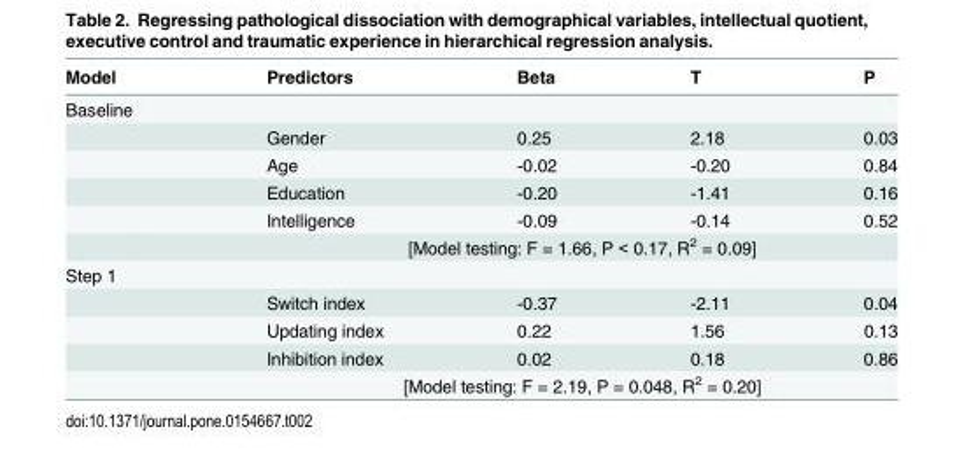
<table><thead><tr><td>Model</td><td>Predictors</td><td>Beta</td><td>T</td><td>P</td></tr></thead><tbody><tr><td colspan="5">Baseline</td></tr><tr><td></td><td>Gender</td><td>0.25</td><td>2.18</td><td>0.03</td></tr><tr><td></td><td>Age</td><td>-0.02</td><td>-0.20</td><td>0.84</td></tr><tr><td></td><td>Education</td><td>-0.20</td><td>-1.41</td><td>0.16</td></tr><tr><td></td><td>Intelligence</td><td>-0.09</td><td>-0.14</td><td>0.52</td></tr><tr><td></td><td colspan="4">[Model testing: F = 1.66, P &lt; 0.17, R<sup>2</sup> = 0.09]</td></tr><tr><td colspan="5">Step 1</td></tr><tr><td></td><td>Switch index</td><td>-0.37</td><td>-2.11</td><td>0.04</td></tr><tr><td></td><td>Updating index</td><td>0.22</td><td>1.56</td><td>0.13</td></tr><tr><td></td><td>Inhibition index</td><td>0.02</td><td>0.18</td><td>0.86</td></tr><tr><td></td><td colspan="4">[Model testing: F = 2.19, P = 0.048, R<sup>2</sup> = 0.20]</td></tr></tbody></table>